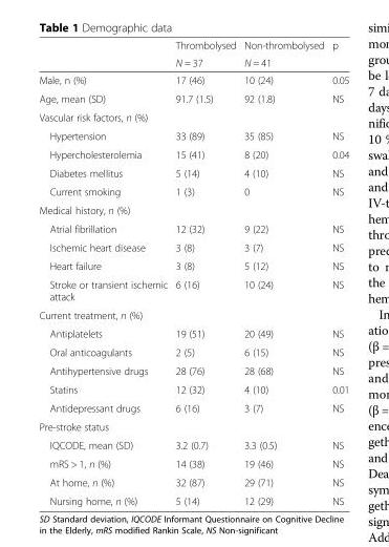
<table><thead><tr><td rowspan="2"></td><td rowspan="2">Thrombolysed N = 37</td><td rowspan="2">Non-thrombolysed N = 41</td><td rowspan="2">p</td></tr><tr></tr></thead><tbody><tr><td>Male, n (%)</td><td>17 (46)</td><td>10 (24)</td><td>0.05</td></tr><tr><td>Age, mean (SD)</td><td>91.7 (1.5)</td><td>92 (1.8)</td><td>NS</td></tr><tr><td colspan="4">Vascular risk factors, n (%)</td></tr><tr><td>Hypertension</td><td>33 (89)</td><td>35 (85)</td><td>NS</td></tr><tr><td>Hypercholesterolemia</td><td>15 (41)</td><td>8 (20)</td><td>0.04</td></tr><tr><td>Diabetes mellitus</td><td>5 (14)</td><td>4 (10)</td><td>NS</td></tr><tr><td>Current smoking</td><td>1 (3)</td><td>0</td><td>NS</td></tr><tr><td colspan="4">Medical history, n (%)</td></tr><tr><td>Atrial fibrillation</td><td>12 (32)</td><td>9 (22)</td><td>NS</td></tr><tr><td>Ischemic heart disease</td><td>3 (8)</td><td>3 (7)</td><td>NS</td></tr><tr><td>Heart failure</td><td>3 (8)</td><td>5 (12)</td><td>NS</td></tr><tr><td>Stroke or transient ischemic attack</td><td>6 (16)</td><td>10 (24)</td><td>NS</td></tr><tr><td colspan="4">Current treatment, n (%)</td></tr><tr><td>Antiplatelets</td><td>19 (51)</td><td>20 (49)</td><td>NS</td></tr><tr><td>Oral anticoagulants</td><td>2 (5)</td><td>6 (15)</td><td>NS</td></tr><tr><td>Antihypertensive drugs</td><td>28 (76)</td><td>28 (68)</td><td>NS</td></tr><tr><td>Statins</td><td>12 (32)</td><td>4 (10)</td><td>0.01</td></tr><tr><td>Antidepressant drugs</td><td>6 (16)</td><td>3 (7)</td><td>NS</td></tr><tr><td colspan="4">Pre-stroke status</td></tr><tr><td>IQCODE, mean (SD)</td><td>3.2 (0.7)</td><td>3.3 (0.5)</td><td>NS</td></tr><tr><td>mRS &gt; 1, n (%)</td><td>14 (38)</td><td>19 (46)</td><td>NS</td></tr><tr><td>At home, n (%)</td><td>32 (87)</td><td>29 (71)</td><td>NS</td></tr><tr><td>Nursing home, n (%)</td><td>5 (14)</td><td>12 (29)</td><td>NS</td></tr></tbody></table>